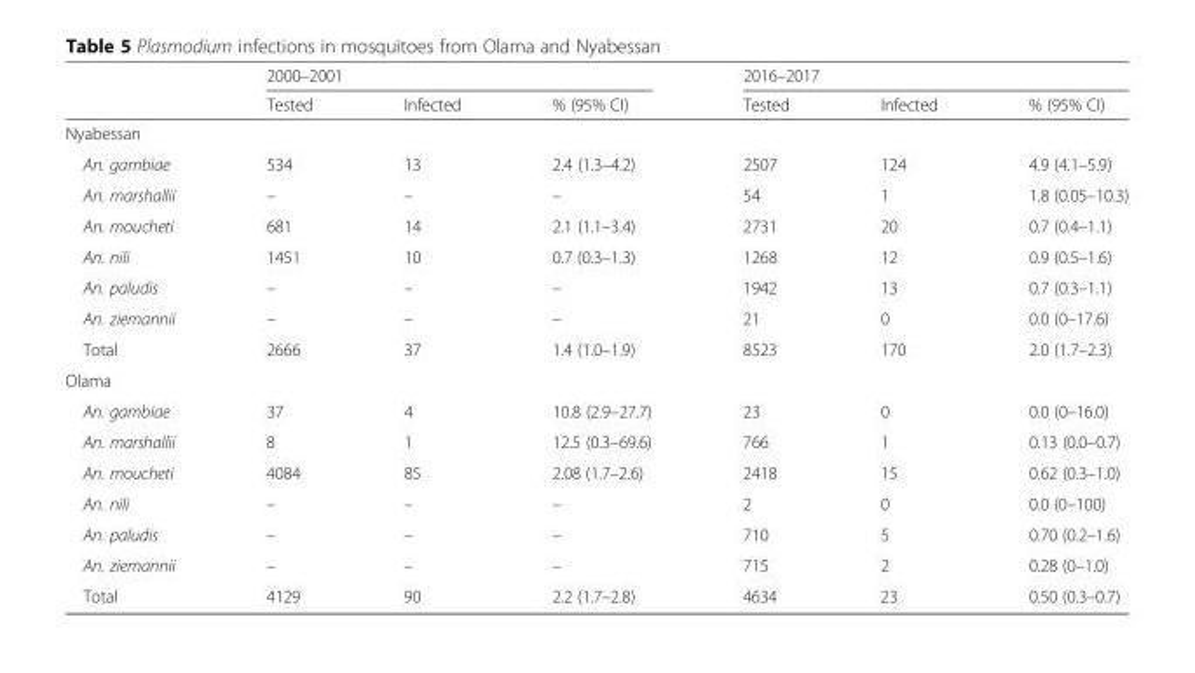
<table><thead><tr><td rowspan="2"></td><td colspan="3">2000–2001</td><td colspan="3">2016–2017</td></tr><tr><td>Tested</td><td>Infected</td><td>% (95% CI)</td><td>Tested</td><td>Infected</td><td>% (95% CI)</td></tr></thead><tbody><tr><td colspan="7">Nyabessan</td></tr><tr><td>An. gambiae</td><td>534</td><td>13</td><td>2.4 (1.3–4.2)</td><td>2507</td><td>124</td><td>4.9 (4.1–5.9)</td></tr><tr><td>An. marshallii</td><td>–</td><td>–</td><td>–</td><td>54</td><td>1</td><td>1.8 (0.05–10.3)</td></tr><tr><td>An. moucheti</td><td>681</td><td>14</td><td>2.1 (1.1–3.4)</td><td>2731</td><td>20</td><td>0.7 (0.4–1.1)</td></tr><tr><td>An. nili</td><td>1451</td><td>10</td><td>0.7 (0.3–1.3)</td><td>1268</td><td>12</td><td>0.9 (0.5–1.6)</td></tr><tr><td>An. paludis</td><td>–</td><td>–</td><td>–</td><td>1942</td><td>13</td><td>0.7 (0.3–1.1)</td></tr><tr><td>An. ziemannii</td><td>–</td><td>–</td><td>–</td><td>21</td><td>0</td><td>0.0 (0–17.6)</td></tr><tr><td>Total</td><td>2666</td><td>37</td><td>1.4 (1.0–1.9)</td><td>8523</td><td>170</td><td>2.0 (1.7–2.3)</td></tr><tr><td colspan="7">Olama</td></tr><tr><td>An. gambiae</td><td>37</td><td>4</td><td>10.8 (2.9–27.7)</td><td>23</td><td>0</td><td>0.0 (0–16.0)</td></tr><tr><td>An. marshallii</td><td>8</td><td>1</td><td>12.5 (0.3–69.6)</td><td>766</td><td>1</td><td>0.13 (0.0–0.7)</td></tr><tr><td>An. moucheti</td><td>4084</td><td>85</td><td>2.08 (1.7–2.6)</td><td>2418</td><td>15</td><td>0.62 (0.3–1.0)</td></tr><tr><td>An. nili</td><td>–</td><td>–</td><td>–</td><td>2</td><td>0</td><td>0.0 (0–100)</td></tr><tr><td>An. paludis</td><td>–</td><td>–</td><td>–</td><td>710</td><td>5</td><td>0.70 (0.2–1.6)</td></tr><tr><td>An. ziemannii</td><td>–</td><td>–</td><td>–</td><td>715</td><td>2</td><td>0.28 (0–1.0)</td></tr><tr><td>Total</td><td>4129</td><td>90</td><td>2.2 (1.7–2.8)</td><td>4634</td><td>23</td><td>0.50 (0.3–0.7)</td></tr></tbody></table>